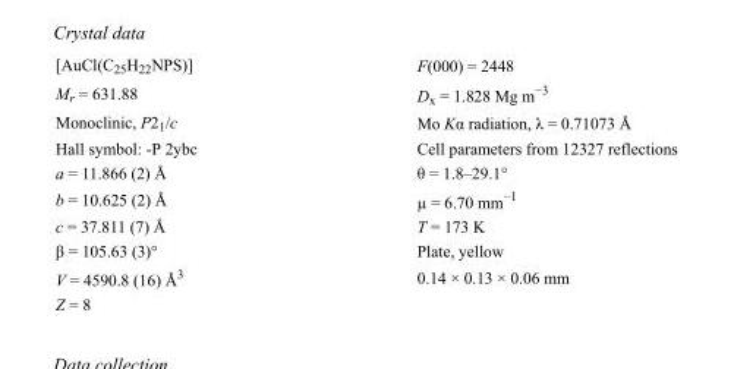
<table><tbody><tr><td>[AuCl(C<sub>25</sub>H<sub>22</sub>NPS)]</td><td>F(000) = 2448</td></tr><tr><td>M<sub>r</sub> = 631.88</td><td>D<sub>x</sub> = 1.828 Mg m<sup>−3</sup></td></tr><tr><td>Monoclinic, P2<sub>1</sub>/c</td><td>Mo Kα radiation, λ = 0.71073 Å</td></tr><tr><td>Hall symbol: -P 2ybc</td><td>Cell parameters from 12327 reflections</td></tr><tr><td>a = 11.866 (2) Å</td><td>θ = 1.8–29.1°</td></tr><tr><td>b = 10.625 (2) Å</td><td>µ = 6.70 mm<sup>−1</sup></td></tr><tr><td>c = 37.811 (7) Å</td><td>T = 173 K</td></tr><tr><td>β = 105.63 (3)°</td><td>Plate, yellow</td></tr><tr><td>V = 4590.8 (16) Å<sup>3</sup></td><td>0.14 × 0.13 × 0.06 mm</td></tr><tr><td>Z = 8</td><td></td></tr></tbody></table>